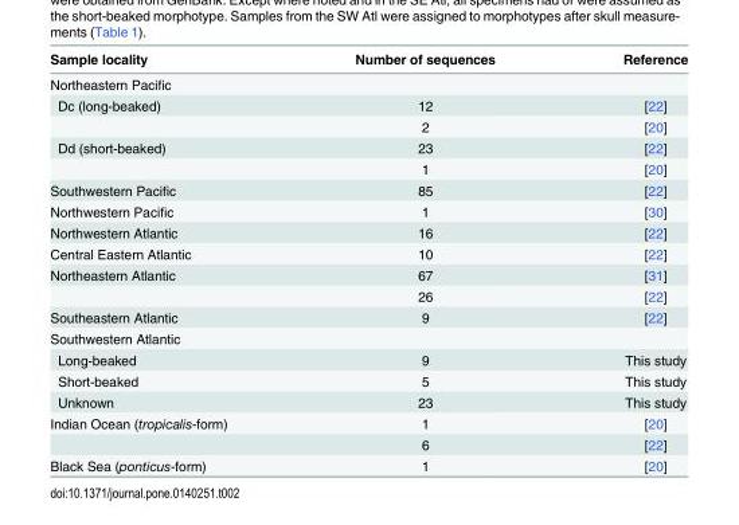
<table><thead><tr><td>Sample locality</td><td>Number of sequences</td><td>Reference</td></tr></thead><tbody><tr><td colspan="3">Northeastern Pacific</td></tr><tr><td rowspan="2">Dc (long-beaked)</td><td>12</td><td>[22]</td></tr><tr><td>2</td><td>[20]</td></tr><tr><td rowspan="2">Dd (short-beaked)</td><td>23</td><td>[22]</td></tr><tr><td>1</td><td>[20]</td></tr><tr><td>Southwestern Pacific</td><td>85</td><td>[22]</td></tr><tr><td>Northwestern Pacific</td><td>1</td><td>[30]</td></tr><tr><td>Northwestern Atlantic</td><td>16</td><td>[22]</td></tr><tr><td>Central Eastern Atlantic</td><td>10</td><td>[22]</td></tr><tr><td rowspan="2">Northeastern Atlantic</td><td>67</td><td>[31]</td></tr><tr><td>26</td><td>[22]</td></tr><tr><td>Southeastern Atlantic</td><td>9</td><td>[22]</td></tr><tr><td colspan="3">Southwestern Atlantic</td></tr><tr><td>Long-beaked</td><td>9</td><td>This study</td></tr><tr><td>Short-beaked</td><td>5</td><td>This study</td></tr><tr><td>Unknown</td><td>23</td><td>This study</td></tr><tr><td rowspan="2">Indian Ocean (tropicalis-form)</td><td>1</td><td>[20]</td></tr><tr><td>6</td><td>[22]</td></tr><tr><td>Black Sea (ponticus-form)</td><td>1</td><td>[20]</td></tr></tbody></table>